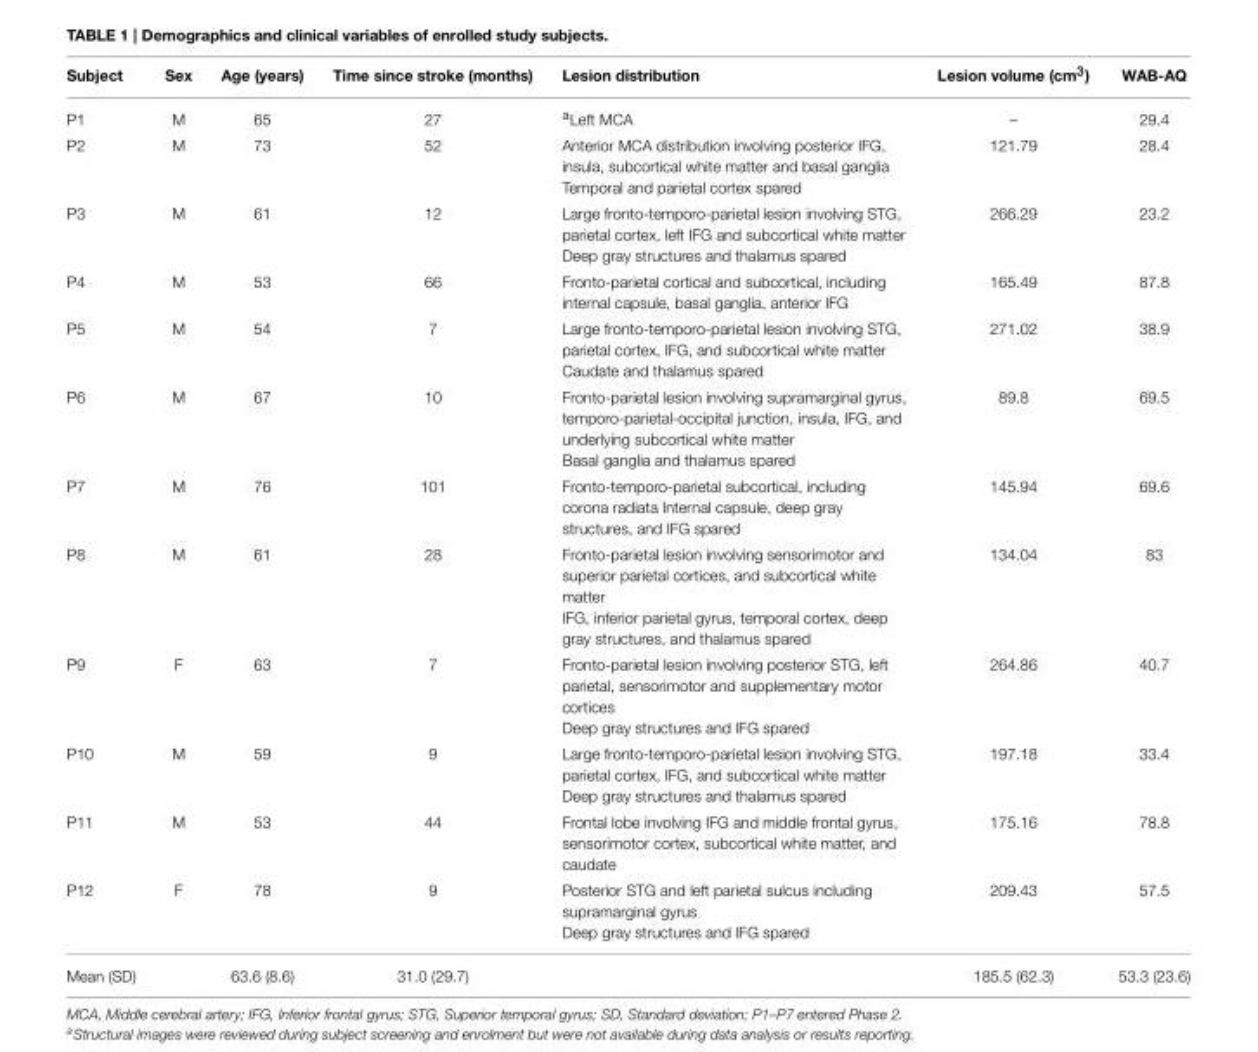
<table><thead><tr><td>Subject</td><td>Sex</td><td>Age (years)</td><td>Time since stroke (months)</td><td>Lesion distribution</td><td>Lesion volume (cm<sup>3</sup>)</td><td>WAB-AQ</td></tr></thead><tbody><tr><td>P1</td><td>M</td><td>65</td><td>27</td><td><sup>a</sup>Left MCA</td><td>–</td><td>29.4</td></tr><tr><td>P2</td><td>M</td><td>73</td><td>52</td><td>Anterior MCA distribution involving posterior IFG, insula, subcortical white matter and basal ganglia Temporal and parietal cortex spared</td><td>121.79</td><td>28.4</td></tr><tr><td>P3</td><td>M</td><td>61</td><td>12</td><td>Large fronto-temporo-parietal lesion involving STG, parietal cortex, left IFG and subcortical white matter Deep gray structures and thalamus spared</td><td>266.29</td><td>23.2</td></tr><tr><td>P4</td><td>M</td><td>53</td><td>66</td><td>Fronto-parietal cortical and subcortical, including internal capsule, basal ganglia, anterior IFG</td><td>165.49</td><td>87.8</td></tr><tr><td>P5</td><td>M</td><td>54</td><td>7</td><td>Large fronto-temporo-parietal lesion involving STG, parietal cortex, IFG, and subcortical white matter Caudate and thalamus spared</td><td>271.02</td><td>38.9</td></tr><tr><td>P6</td><td>M</td><td>67</td><td>10</td><td>Fronto-parietal lesion involving supramarginal gyrus, temporo-parietal-occipital junction, insula, IFG, and underlying subcortical white matter Basal ganglia and thalamus spared</td><td>89.8</td><td>69.5</td></tr><tr><td>P7</td><td>M</td><td>76</td><td>101</td><td>Fronto-temporo-parietal subcortical, including corona radiata Internal capsule, deep gray structures, and IFG spared</td><td>145.94</td><td>69.6</td></tr><tr><td>P8</td><td>M</td><td>61</td><td>28</td><td>Fronto-parietal lesion involving sensorimotor and superior parietal cortices, and subcortical white matter IFG, inferior parietal gyrus, temporal cortex, deep gray structures, and thalamus spared</td><td>134.04</td><td>83</td></tr><tr><td>P9</td><td>F</td><td>63</td><td>7</td><td>Fronto-parietal lesion involving posterior STG, left parietal, sensorimotor and supplementary motor cortices Deep gray structures and IFG spared</td><td>264.86</td><td>40.7</td></tr><tr><td>P10</td><td>M</td><td>59</td><td>9</td><td>Large fronto-temporo-parietal lesion involving STG, parietal cortex, IFG, and subcortical white matter Deep gray structures and thalamus spared</td><td>197.18</td><td>33.4</td></tr><tr><td>P11</td><td>M</td><td>53</td><td>44</td><td>Frontal lobe involving IFG and middle frontal gyrus, sensorimotor cortex, subcortical white matter, and caudate</td><td>175.16</td><td>78.8</td></tr><tr><td>P12</td><td>F</td><td>78</td><td>9</td><td>Posterior STG and left parietal sulcus including supramarginal gyrus Deep gray structures and IFG spared</td><td>209.43</td><td>57.5</td></tr><tr><td>Mean (SD)</td><td></td><td>63.6 (8.6)</td><td>31.0 (29.7)</td><td></td><td>185.5 (62.3)</td><td>53.3 (23.6)</td></tr></tbody></table>